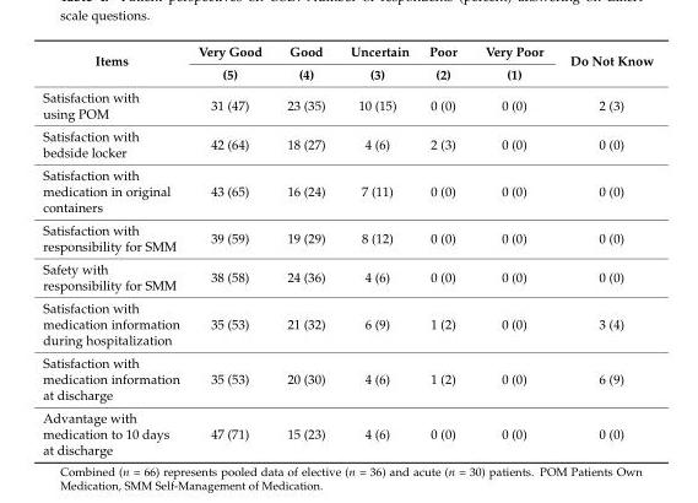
<table><thead><tr><td rowspan="2">Items</td><td rowspan="2">Very Good (5)</td><td rowspan="2">Good (4)</td><td rowspan="2">Uncertain (3)</td><td rowspan="2">Poor (2)</td><td rowspan="2">Very Poor (1)</td><td rowspan="2">Do Not Know</td></tr><tr></tr></thead><tbody><tr><td>Satisfaction with using POM</td><td>31 (47)</td><td>23 (35)</td><td>10 (15)</td><td>0 (0)</td><td>0 (0)</td><td>2 (3)</td></tr><tr><td>Satisfaction with bedside locker</td><td>42 (64)</td><td>18 (27)</td><td>4 (6)</td><td>2 (3)</td><td>0 (0)</td><td>0 (0)</td></tr><tr><td>Satisfaction with medication in original containers</td><td>43 (65)</td><td>16 (24)</td><td>7 (11)</td><td>0 (0)</td><td>0 (0)</td><td>0 (0)</td></tr><tr><td>Satisfaction with responsibility for SMM</td><td>39 (59)</td><td>19 (29)</td><td>8 (12)</td><td>0 (0)</td><td>0 (0)</td><td>0 (0)</td></tr><tr><td>Safety with responsibility for SMM</td><td>38 (58)</td><td>24 (36)</td><td>4 (6)</td><td>0 (0)</td><td>0 (0)</td><td>0 (0)</td></tr><tr><td>Satisfaction with medication information during hospitalization</td><td>35 (53)</td><td>21 (32)</td><td>6 (9)</td><td>1 (2)</td><td>0 (0)</td><td>3 (4)</td></tr><tr><td>Satisfaction with medication information at discharge</td><td>35 (53)</td><td>20 (30)</td><td>4 (6)</td><td>1 (2)</td><td>0 (0)</td><td>6 (9)</td></tr><tr><td>Advantage with medication to 10 days at discharge</td><td>47 (71)</td><td>15 (23)</td><td>4 (6)</td><td>0 (0)</td><td>0 (0)</td><td>0 (0)</td></tr></tbody></table>